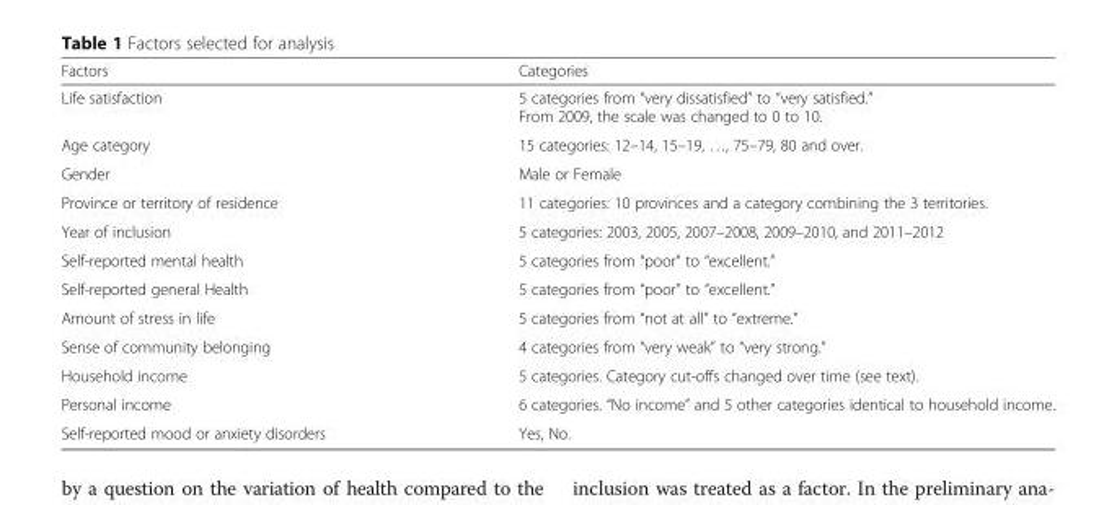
<table><thead><tr><td>Factors</td><td>Categories</td></tr></thead><tbody><tr><td>Life satisfaction</td><td>5 categories from “very dissatisfied” to “very satisfied.” From 2009, the scale was changed to 0 to 10.</td></tr><tr><td>Age category</td><td>15 categories: 12–14, 15–19, …, 75–79, 80 and over.</td></tr><tr><td>Gender</td><td>Male or Female</td></tr><tr><td>Province or territory of residence</td><td>11 categories: 10 provinces and a category combining the 3 territories.</td></tr><tr><td>Year of inclusion</td><td>5 categories: 2003, 2005, 2007–2008, 2009–2010, and 2011–2012</td></tr><tr><td>Self-reported mental health</td><td>5 categories from “poor” to “excellent.”</td></tr><tr><td>Self-reported general Health</td><td>5 categories from “poor” to “excellent.”</td></tr><tr><td>Amount of stress in life</td><td>5 categories from “not at all” to “extreme.”</td></tr><tr><td>Sense of community belonging</td><td>4 categories from “very weak” to “very strong.”</td></tr><tr><td>Household income</td><td>5 categories. Category cut-offs changed over time (see text).</td></tr><tr><td>Personal income</td><td>6 categories. “No income” and 5 other categories identical to household income.</td></tr><tr><td>Self-reported mood or anxiety disorders</td><td>Yes, No.</td></tr></tbody></table>